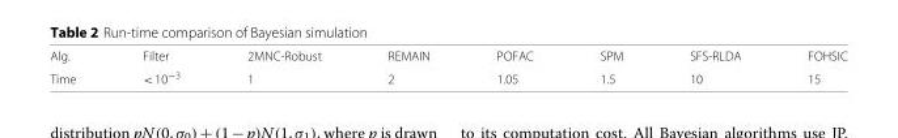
<table><tbody><tr><td>Alg.</td><td>Filter</td><td>2MNC-Robust</td><td>REMAIN</td><td>POFAC</td><td>SPM</td><td>SFS-RLDA</td><td>FOHSIC</td></tr><tr><td>Time</td><td>&lt;10<sup>−3</sup></td><td>1</td><td>2</td><td>1.05</td><td>1.5</td><td>10</td><td>15</td></tr></tbody></table>